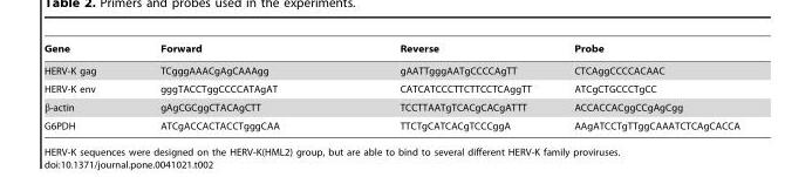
<table><thead><tr><td>Gene</td><td>Forward</td><td>Reverse</td><td>Probe</td></tr></thead><tbody><tr><td>HERV-K gag</td><td>TCgggAAACgAgCAAAgg</td><td>gAATTgggAATgCCCCAgTT</td><td>CTCAggCCCCACAAC</td></tr><tr><td>HERV-K env</td><td>gggTACCTggCCCCATAgAT</td><td>CATCATCCCTTCTTCCTCAggTT</td><td>ATCgCTGCCCTgCC</td></tr><tr><td>β-actin</td><td>gAgCGCggCTACAgCTT</td><td>TCCTTAATgTCACgCACgATTT</td><td>ACCACCACggCCgAgCgg</td></tr><tr><td>G6PDH</td><td>ATCgACCACTACCTgggCAA</td><td>TTCTgCATCACgTCCCggA</td><td>AAgATCCTgTTggCAAATCTCAgCACCA</td></tr></tbody></table>